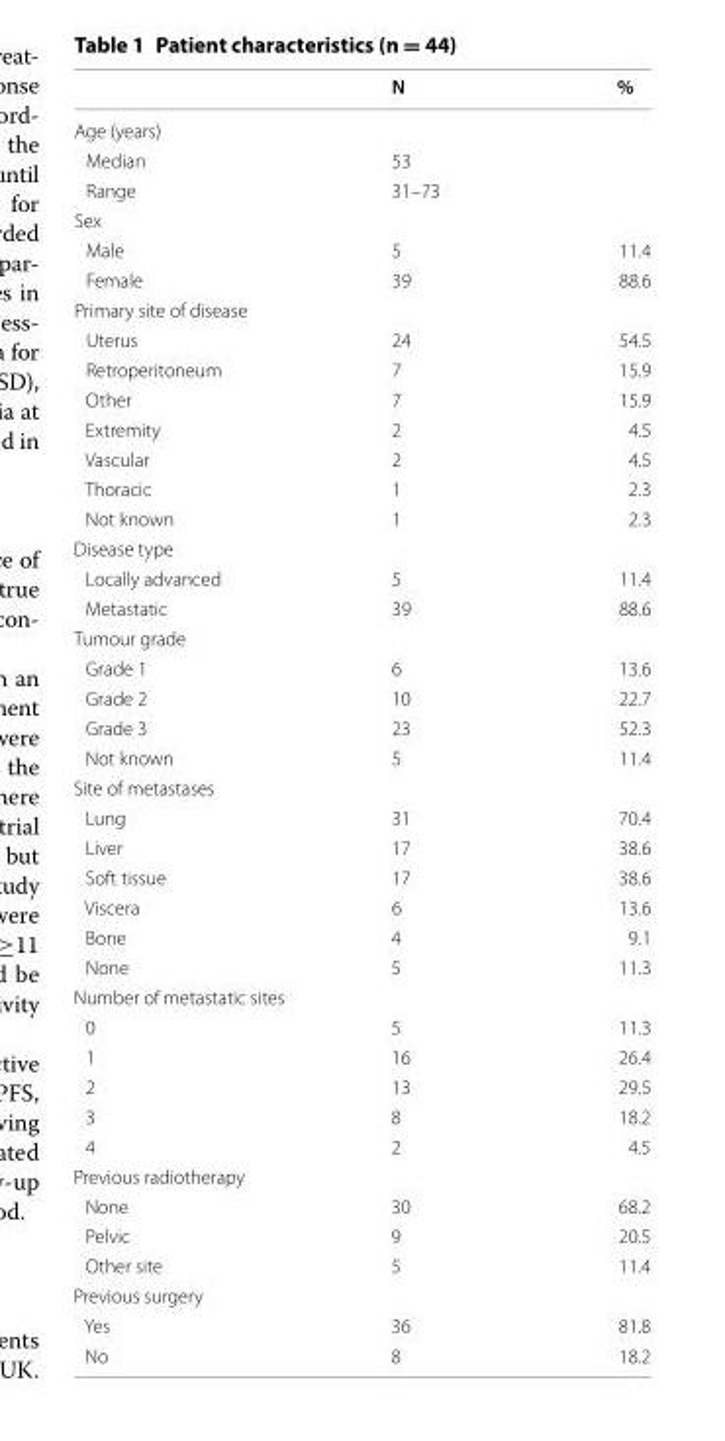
<table><thead><tr><td></td><td>N</td><td>%</td></tr></thead><tbody><tr><td colspan="3">Age (years)</td></tr><tr><td>Median</td><td>53</td><td></td></tr><tr><td>Range</td><td>31–73</td><td></td></tr><tr><td colspan="3">Sex</td></tr><tr><td>Male</td><td>5</td><td>11.4</td></tr><tr><td>Female</td><td>39</td><td>88.6</td></tr><tr><td colspan="3">Primary site of disease</td></tr><tr><td>Uterus</td><td>24</td><td>54.5</td></tr><tr><td>Retroperitoneum</td><td>7</td><td>15.9</td></tr><tr><td>Other</td><td>7</td><td>15.9</td></tr><tr><td>Extremity</td><td>2</td><td>4.5</td></tr><tr><td>Vascular</td><td>2</td><td>4.5</td></tr><tr><td>Thoracic</td><td>1</td><td>2.3</td></tr><tr><td>Not known</td><td>1</td><td>2.3</td></tr><tr><td colspan="3">Disease type</td></tr><tr><td>Locally advanced</td><td>5</td><td>11.4</td></tr><tr><td>Metastatic</td><td>39</td><td>88.6</td></tr><tr><td colspan="3">Tumour grade</td></tr><tr><td>Grade 1</td><td>6</td><td>13.6</td></tr><tr><td>Grade 2</td><td>10</td><td>22.7</td></tr><tr><td>Grade 3</td><td>23</td><td>52.3</td></tr><tr><td>Not known</td><td>5</td><td>11.4</td></tr><tr><td colspan="3">Site of metastases</td></tr><tr><td>Lung</td><td>31</td><td>70.4</td></tr><tr><td>Liver</td><td>17</td><td>38.6</td></tr><tr><td>Soft tissue</td><td>17</td><td>38.6</td></tr><tr><td>Viscera</td><td>6</td><td>13.6</td></tr><tr><td>Bone</td><td>4</td><td>9.1</td></tr><tr><td>None</td><td>5</td><td>11.3</td></tr><tr><td colspan="3">Number of metastatic sites</td></tr><tr><td>0</td><td>5</td><td>11.3</td></tr><tr><td>1</td><td>16</td><td>26.4</td></tr><tr><td>2</td><td>13</td><td>29.5</td></tr><tr><td>3</td><td>8</td><td>18.2</td></tr><tr><td>4</td><td>2</td><td>4.5</td></tr><tr><td colspan="3">Previous radiotherapy</td></tr><tr><td>None</td><td>30</td><td>68.2</td></tr><tr><td>Pelvic</td><td>9</td><td>20.5</td></tr><tr><td>Other site</td><td>5</td><td>11.4</td></tr><tr><td colspan="3">Previous surgery</td></tr><tr><td>Yes</td><td>36</td><td>81.8</td></tr><tr><td>No</td><td>8</td><td>18.2</td></tr></tbody></table>